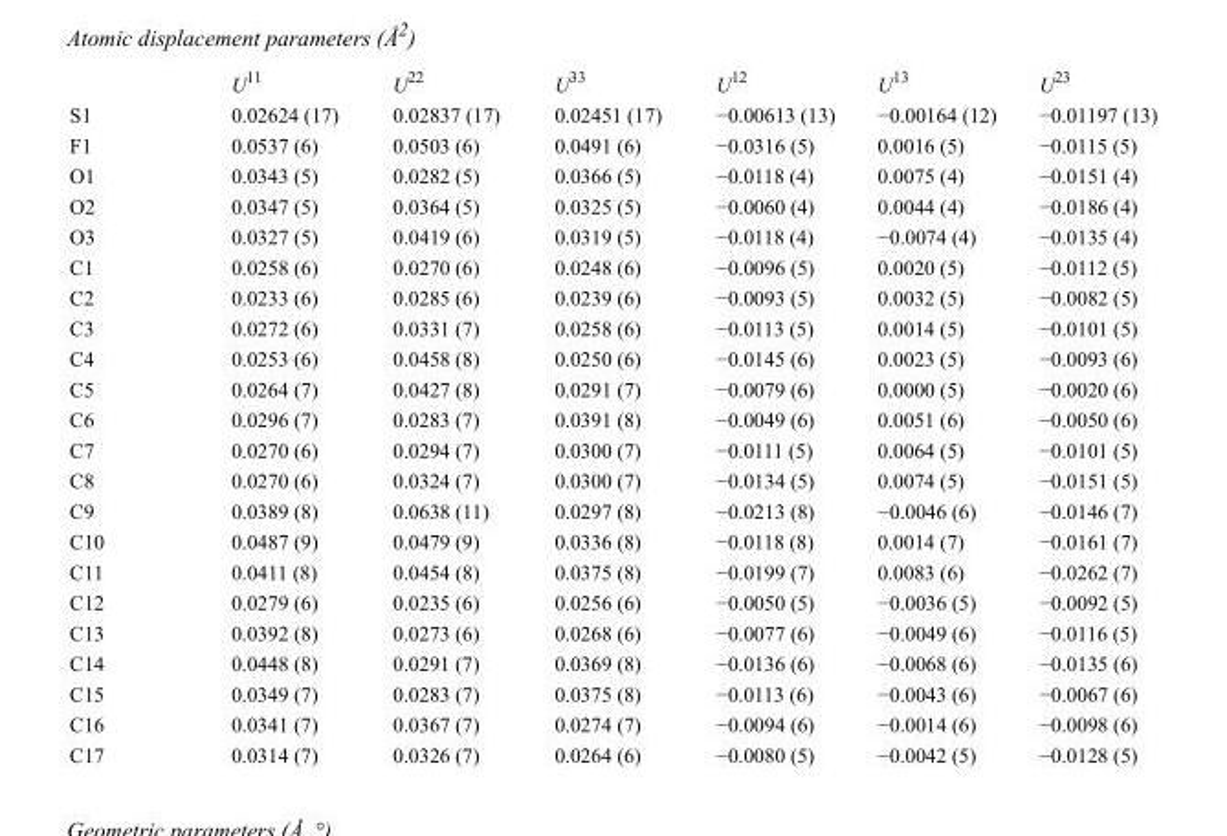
<table><thead><tr><td></td><td>U<sup>11</sup></td><td>U<sup>22</sup></td><td>U<sup>33</sup></td><td>U<sup>12</sup></td><td>U<sup>13</sup></td><td>U<sup>23</sup></td></tr></thead><tbody><tr><td>S1</td><td>0.02624 (17)</td><td>0.02837 (17)</td><td>0.02451 (17)</td><td>−0.00613 (13)</td><td>−0.00164 (12)</td><td>−0.01197 (13)</td></tr><tr><td>F1</td><td>0.0537 (6)</td><td>0.0503 (6)</td><td>0.0491 (6)</td><td>−0.0316 (5)</td><td>0.0016 (5)</td><td>−0.0115 (5)</td></tr><tr><td>O1</td><td>0.0343 (5)</td><td>0.0282 (5)</td><td>0.0366 (5)</td><td>−0.0118 (4)</td><td>0.0075 (4)</td><td>−0.0151 (4)</td></tr><tr><td>O2</td><td>0.0347 (5)</td><td>0.0364 (5)</td><td>0.0325 (5)</td><td>−0.0060 (4)</td><td>0.0044 (4)</td><td>−0.0186 (4)</td></tr><tr><td>O3</td><td>0.0327 (5)</td><td>0.0419 (6)</td><td>0.0319 (5)</td><td>−0.0118 (4)</td><td>−0.0074 (4)</td><td>−0.0135 (4)</td></tr><tr><td>C1</td><td>0.0258 (6)</td><td>0.0270 (6)</td><td>0.0248 (6)</td><td>−0.0096 (5)</td><td>0.0020 (5)</td><td>−0.0112 (5)</td></tr><tr><td>C2</td><td>0.0233 (6)</td><td>0.0285 (6)</td><td>0.0239 (6)</td><td>−0.0093 (5)</td><td>0.0032 (5)</td><td>−0.0082 (5)</td></tr><tr><td>C3</td><td>0.0272 (6)</td><td>0.0331 (7)</td><td>0.0258 (6)</td><td>−0.0113 (5)</td><td>0.0014 (5)</td><td>−0.0101 (5)</td></tr><tr><td>C4</td><td>0.0253 (6)</td><td>0.0458 (8)</td><td>0.0250 (6)</td><td>−0.0145 (6)</td><td>0.0023 (5)</td><td>−0.0093 (6)</td></tr><tr><td>C5</td><td>0.0264 (7)</td><td>0.0427 (8)</td><td>0.0291 (7)</td><td>−0.0079 (6)</td><td>0.0000 (5)</td><td>−0.0020 (6)</td></tr><tr><td>C6</td><td>0.0296 (7)</td><td>0.0283 (7)</td><td>0.0391 (8)</td><td>−0.0049 (6)</td><td>0.0051 (6)</td><td>−0.0050 (6)</td></tr><tr><td>C7</td><td>0.0270 (6)</td><td>0.0294 (7)</td><td>0.0300 (7)</td><td>−0.0111 (5)</td><td>0.0064 (5)</td><td>−0.0101 (5)</td></tr><tr><td>C8</td><td>0.0270 (6)</td><td>0.0324 (7)</td><td>0.0300 (7)</td><td>−0.0134 (5)</td><td>0.0074 (5)</td><td>−0.0151 (5)</td></tr><tr><td>C9</td><td>0.0389 (8)</td><td>0.0638 (11)</td><td>0.0297 (8)</td><td>−0.0213 (8)</td><td>−0.0046 (6)</td><td>−0.0146 (7)</td></tr><tr><td>C10</td><td>0.0487 (9)</td><td>0.0479 (9)</td><td>0.0336 (8)</td><td>−0.0118 (8)</td><td>0.0014 (7)</td><td>−0.0161 (7)</td></tr><tr><td>C11</td><td>0.0411 (8)</td><td>0.0454 (8)</td><td>0.0375 (8)</td><td>−0.0199 (7)</td><td>0.0083 (6)</td><td>−0.0262 (7)</td></tr><tr><td>C12</td><td>0.0279 (6)</td><td>0.0235 (6)</td><td>0.0256 (6)</td><td>−0.0050 (5)</td><td>−0.0036 (5)</td><td>−0.0092 (5)</td></tr><tr><td>C13</td><td>0.0392 (8)</td><td>0.0273 (6)</td><td>0.0268 (6)</td><td>−0.0077 (6)</td><td>−0.0049 (6)</td><td>−0.0116 (5)</td></tr><tr><td>C14</td><td>0.0448 (8)</td><td>0.0291 (7)</td><td>0.0369 (8)</td><td>−0.0136 (6)</td><td>−0.0068 (6)</td><td>−0.0135 (6)</td></tr><tr><td>C15</td><td>0.0349 (7)</td><td>0.0283 (7)</td><td>0.0375 (8)</td><td>−0.0113 (6)</td><td>−0.0043 (6)</td><td>−0.0067 (6)</td></tr><tr><td>C16</td><td>0.0341 (7)</td><td>0.0367 (7)</td><td>0.0274 (7)</td><td>−0.0094 (6)</td><td>−0.0014 (6)</td><td>−0.0098 (6)</td></tr><tr><td>C17</td><td>0.0314 (7)</td><td>0.0326 (7)</td><td>0.0264 (6)</td><td>−0.0080 (5)</td><td>−0.0042 (5)</td><td>−0.0128 (5)</td></tr></tbody></table>